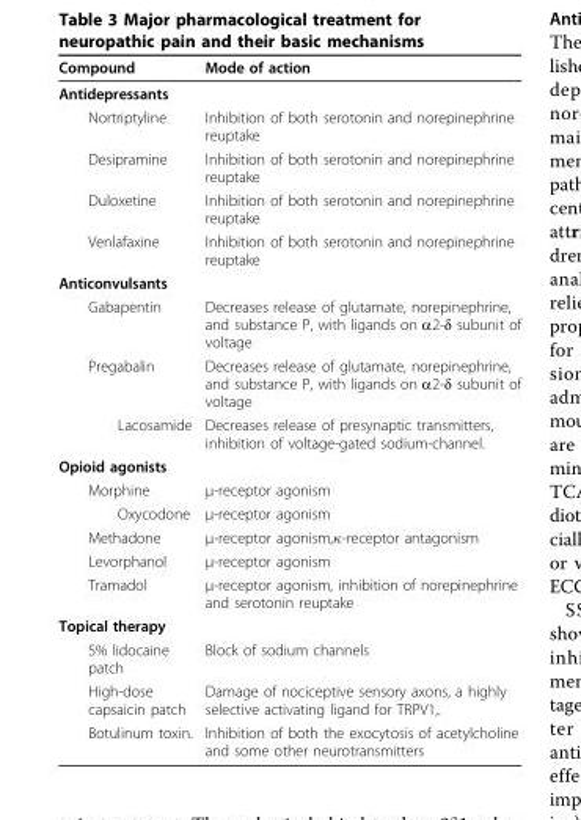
<table><thead><tr><td>Compound</td><td>Mode of action</td></tr></thead><tbody><tr><td colspan="2">Antidepressants</td></tr><tr><td>Nortriptyline</td><td>Inhibition of both serotonin and norepinephrine reuptake</td></tr><tr><td>Desipramine</td><td>Inhibition of both serotonin and norepinephrine reuptake</td></tr><tr><td>Duloxetine</td><td>Inhibition of both serotonin and norepinephrine reuptake</td></tr><tr><td>Venlafaxine</td><td>Inhibition of both serotonin and norepinephrine reuptake</td></tr><tr><td colspan="2">Anticonvulsants</td></tr><tr><td>Gabapentin</td><td>Decreases release of glutamate, norepinephrine, and substance P, with ligands on α2-δ subunit of voltage</td></tr><tr><td>Pregabalin</td><td>Decreases release of glutamate, norepinephrine, and substance P, with ligands on α2-δ subunit of voltage</td></tr><tr><td>Lacosamide</td><td>Decreases release of presynaptic transmitters, inhibition of voltage-gated sodium-channel.</td></tr><tr><td colspan="2">Opioid agonists</td></tr><tr><td>Morphine</td><td>μ-receptor agonism</td></tr><tr><td>Oxycodone</td><td>μ-receptor agonism</td></tr><tr><td>Methadone</td><td>μ-receptor agonism,κ-receptor antagonism</td></tr><tr><td>Levorphanol</td><td>μ-receptor agonism</td></tr><tr><td>Tramadol</td><td>μ-receptor agonism, inhibition of norepinephrine and serotonin reuptake</td></tr><tr><td colspan="2">Topical therapy</td></tr><tr><td>5% lidocaine patch</td><td>Block of sodium channels</td></tr><tr><td>High-dose capsaicin patch</td><td>Damage of nociceptive sensory axons, a highly selective activating ligand for TRPV1,.</td></tr><tr><td>Botulinum toxin.</td><td>Inhibition of both the exocytosis of acetylcholine and some other neurotransmitters</td></tr></tbody></table>